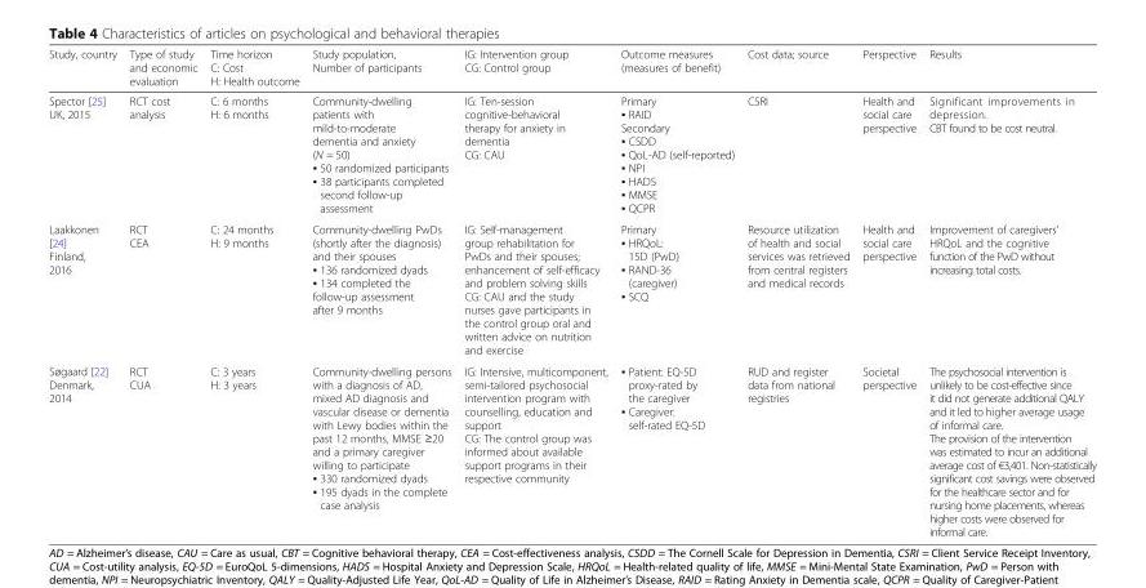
<table><thead><tr><td>Study, country</td><td>Type of study and economic evaluation</td><td>Time horizon C: Cost H: Health outcome</td><td>Study population, Number of participants</td><td>IG: Intervention group CG: Control group</td><td>Outcome measures (measures of benefit)</td><td>Cost data; source</td><td>Perspective</td><td>Results</td></tr></thead><tbody><tr><td>Spector [25] UK, 2015</td><td>RCT cost analysis</td><td>C: 6 months H: 6 months</td><td>Community-dwelling patients with mild-to-moderate dementia and anxiety (N = 50) ▪ 50 randomized participants ▪ 38 participants completed second follow-up assessment</td><td>IG: Ten-session cognitive-behavioral therapy for anxiety in dementia CG: CAU</td><td>Primary ▪ RAID Secondary ▪ CSDD ▪ QoL-AD (self-reported) ▪ NPI ▪ HADS ▪ MMSE ▪ QCPR</td><td>CSRI</td><td>Health and social care perspective</td><td>Significant improvements in depression. CBT found to be cost neutral.</td></tr><tr><td>Laakkonen [24] Finland, 2016</td><td>RCT CEA</td><td>C: 24 months H: 9 months</td><td>Community-dwelling PwDs (shortly after the diagnosis) and their spouses ▪ 136 randomized dyads ▪ 134 completed the follow-up assessment after 9 months</td><td>IG: Self-management group rehabilitation for PwDs and their spouses; enhancement of self-efficacy and problem solving skills CG: CAU and the study nurses gave participants in the control group oral and written advice on nutrition and exercise</td><td>Primary ▪ HRQoL: 15D (PwD) ▪ RAND-36 (caregiver) ▪ SCQ</td><td>Resource utilization of health and social services was retrieved from central registers and medical records</td><td>Health and social care perspective</td><td>Improvement of caregivers’ HRQoL and the cognitive function of the PwD without increasing total costs.</td></tr><tr><td>Søgaard [22] Denmark, 2014</td><td>RCT CUA</td><td>C: 3 years H: 3 years</td><td>Community-dwelling persons with a diagnosis of AD, mixed AD diagnosis and vascular disease or dementia with Lewy bodies within the past 12 months, MMSE ≥20 and a primary caregiver willing to participate ▪ 330 randomized dyads ▪ 195 dyads in the complete case analysis</td><td>IG: Intensive, multicomponent, semi-tailored psychosocial intervention program with counselling, education and support CG: The control group was informed about available support programs in their respective community</td><td>▪ Patient: EQ-5D proxy-rated by the caregiver ▪ Caregiver: self-rated EQ-5D</td><td>RUD and register data from national registries</td><td>Societal perspective</td><td>The psychosocial intervention is unlikely to be cost-effective since it did not generate additional QALY and it led to higher average usage of informal care. The provision of the intervention was estimated to incur an additional average cost of €3,401. Non-statistically significant cost savings were observed for the healthcare sector and for nursing home placements, whereas higher costs were observed for informal care.</td></tr></tbody></table>